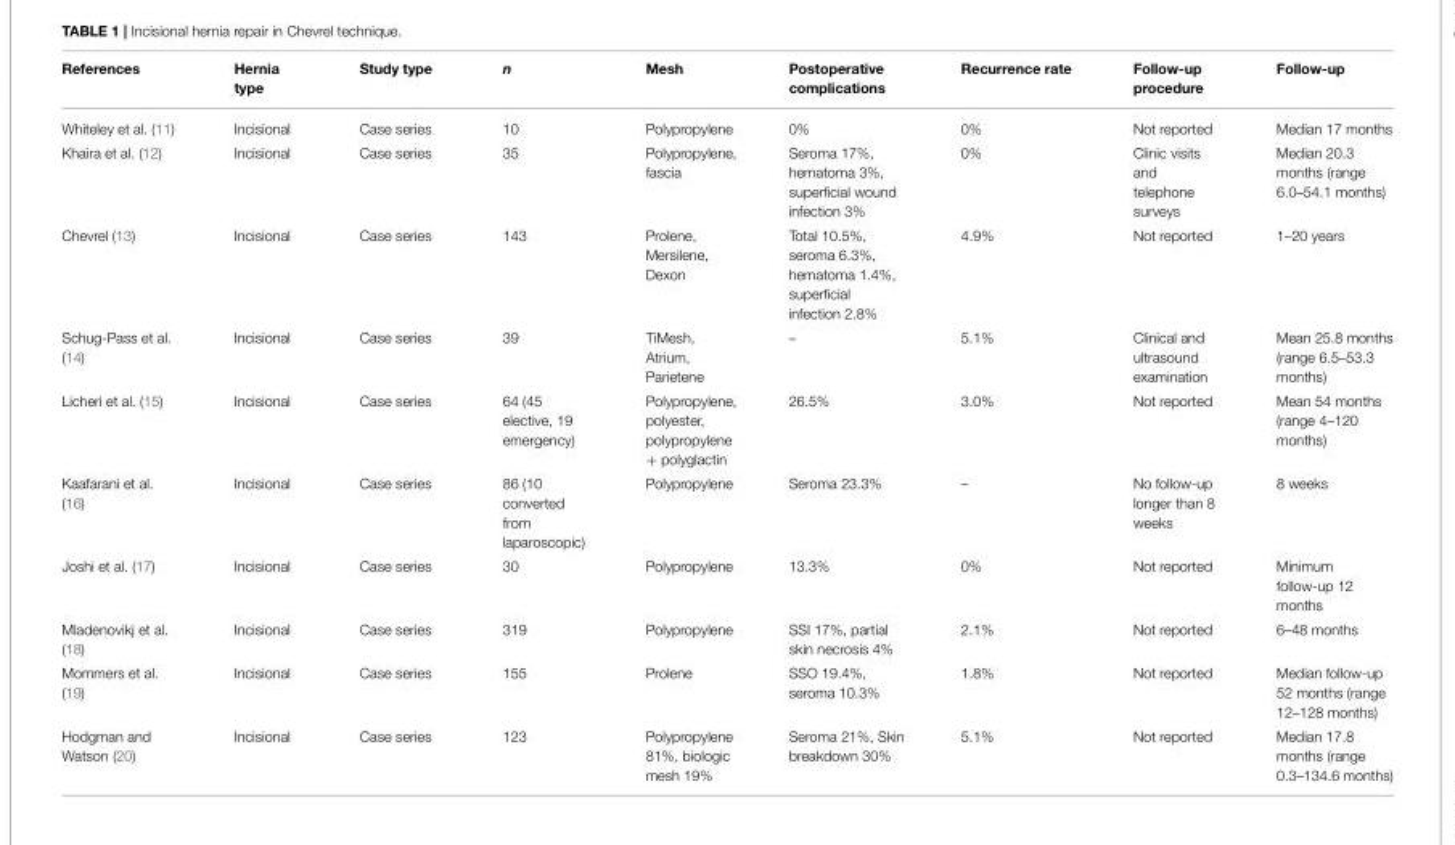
<table><thead><tr><td>References</td><td>Hernia type</td><td>Study type</td><td>n</td><td>Mesh</td><td>Postoperative complications</td><td>Recurrence rate</td><td>Follow-up procedure</td><td>Follow-up</td></tr></thead><tbody><tr><td>Whiteley et al. (11)</td><td>Incisional</td><td>Case series</td><td>10</td><td>Polypropylene</td><td>0%</td><td>0%</td><td>Not reported</td><td>Median 17 months</td></tr><tr><td>Khaira et al. (12)</td><td>Incisional</td><td>Case series</td><td>35</td><td>Polypropylene, fascia</td><td>Seroma 17%, hematoma 3%, superficial wound infection 3%</td><td>0%</td><td>Clinic visits and telephone surveys</td><td>Median 20.3 months (range 6.0–54.1 months)</td></tr><tr><td>Chevrel (13)</td><td>Incisional</td><td>Case series</td><td>143</td><td>Prolene, Mersilene, Dexon</td><td>Total 10.5%, seroma 6.3%, hematoma 1.4%, superficial infection 2.8%</td><td>4.9%</td><td>Not reported</td><td>1–20 years</td></tr><tr><td>Schug-Pass et al. (14)</td><td>Incisional</td><td>Case series</td><td>39</td><td>TiMesh, Atrium, Parietene</td><td>–</td><td>5.1%</td><td>Clinical and ultrasound examination</td><td>Mean 25.8 months (range 6.5–53.3 months)</td></tr><tr><td>Licheri et al. (15)</td><td>Incisional</td><td>Case series</td><td>64 (45 elective, 19 emergency)</td><td>Polypropylene, polyester, polypropylene + polyglactin</td><td>26.5%</td><td>3.0%</td><td>Not reported</td><td>Mean 54 months (range 4–120 months)</td></tr><tr><td>Kaafarani et al. (16)</td><td>Incisional</td><td>Case series</td><td>86 (10 converted from laparoscopic)</td><td>Polypropylene</td><td>Seroma 23.3%</td><td>–</td><td>No follow-up longer than 8 weeks</td><td>8 weeks</td></tr><tr><td>Joshi et al. (17)</td><td>Incisional</td><td>Case series</td><td>30</td><td>Polypropylene</td><td>13.3%</td><td>0%</td><td>Not reported</td><td>Minimum follow-up 12 months</td></tr><tr><td>Mladenovikj et al. (18)</td><td>Incisional</td><td>Case series</td><td>319</td><td>Polypropylene</td><td>SSI 17%, partial skin necrosis 4%</td><td>2.1%</td><td>Not reported</td><td>6–48 months</td></tr><tr><td>Mommers et al. (19)</td><td>Incisional</td><td>Case series</td><td>155</td><td>Prolene</td><td>SSO 19.4%, seroma 10.3%</td><td>1.8%</td><td>Not reported</td><td>Median follow-up 52 months (range 12–128 months)</td></tr><tr><td>Hodgman and Watson (20)</td><td>Incisional</td><td>Case series</td><td>123</td><td>Polypropylene 81%, biologic mesh 19%</td><td>Seroma 21%, Skin breakdown 30%</td><td>5.1%</td><td>Not reported</td><td>Median 17.8 months (range 0.3–134.6 months)</td></tr></tbody></table>